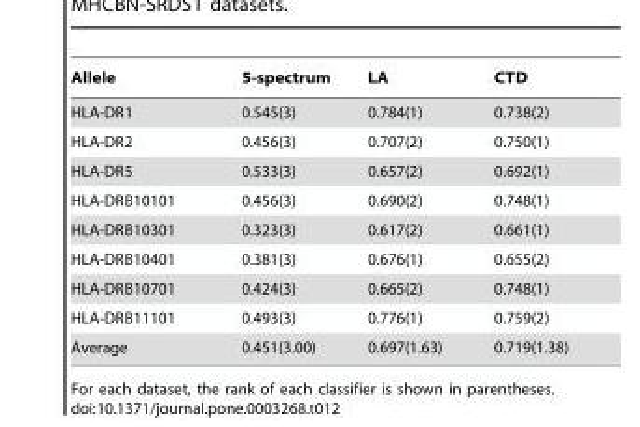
<table><thead><tr><td>Allele</td><td>5-spectrum</td><td>LA</td><td>CTD</td></tr></thead><tbody><tr><td>HLA-DR1</td><td>0.545(3)</td><td>0.784(1)</td><td>0.738(2)</td></tr><tr><td>HLA-DR2</td><td>0.456(3)</td><td>0.707(2)</td><td>0.750(1)</td></tr><tr><td>HLA-DR5</td><td>0.533(3)</td><td>0.657(2)</td><td>0.692(1)</td></tr><tr><td>HLA-DRB10101</td><td>0.456(3)</td><td>0.690(2)</td><td>0.748(1)</td></tr><tr><td>HLA-DRB10301</td><td>0.323(3)</td><td>0.617(2)</td><td>0.661(1)</td></tr><tr><td>HLA-DRB10401</td><td>0.381(3)</td><td>0.676(1)</td><td>0.655(2)</td></tr><tr><td>HLA-DRB10701</td><td>0.424(3)</td><td>0.665(2)</td><td>0.748(1)</td></tr><tr><td>HLA-DRB11101</td><td>0.493(3)</td><td>0.776(1)</td><td>0.759(2)</td></tr><tr><td>Average</td><td>0.451(3.00)</td><td>0.697(1.63)</td><td>0.719(1.38)</td></tr></tbody></table>